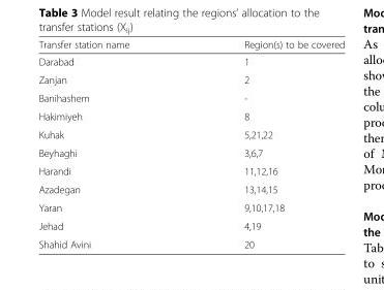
<table><thead><tr><td>Transfer station name</td><td>Region(s) to be covered</td></tr></thead><tbody><tr><td>Darabad</td><td>1</td></tr><tr><td>Zanjan</td><td>2</td></tr><tr><td>Banihashem</td><td>-</td></tr><tr><td>Hakimiyeh</td><td>8</td></tr><tr><td>Kuhak</td><td>5,21,22</td></tr><tr><td>Beyhaghi</td><td>3,6,7</td></tr><tr><td>Harandi</td><td>11,12,16</td></tr><tr><td>Azadegan</td><td>13,14,15</td></tr><tr><td>Yaran</td><td>9,10,17,18</td></tr><tr><td>Jehad</td><td>4,19</td></tr><tr><td>Shahid Avini</td><td>20</td></tr></tbody></table>